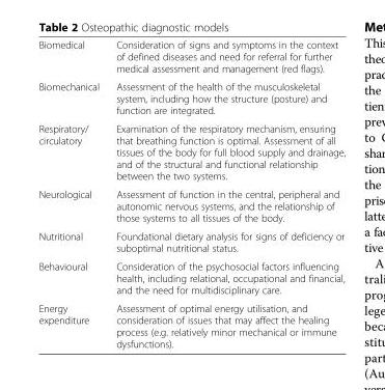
<table><tbody><tr><td>Biomedical</td><td>Consideration of signs and symptoms in the context of defined diseases and need for referral for further medical assessment and management (red flags).</td></tr><tr><td>Biomechanical</td><td>Assessment of the health of the musculoskeletal system, including how the structure (posture) and function are integrated.</td></tr><tr><td>Respiratory/ circulatory</td><td>Examination of the respiratory mechanism, ensuring that breathing function is optimal. Assessment of all tissues of the body for full blood supply and drainage, and of the structural and functional relationship between the two systems.</td></tr><tr><td>Neurological</td><td>Assessment of function in the central, peripheral and autonomic nervous systems, and the relationship of those systems to all tissues of the body.</td></tr><tr><td>Nutritional</td><td>Foundational dietary analysis for signs of deficiency or suboptimal nutritional status.</td></tr><tr><td>Behavioural</td><td>Consideration of the psychosocial factors influencing health, including relational, occupational and financial, and the need for multidisciplinary care.</td></tr><tr><td>Energy expenditure</td><td>Assessment of optimal energy utilisation, and consideration of issues that may affect the healing process (e.g. relatively minor mechanical or immune dysfunctions).</td></tr></tbody></table>